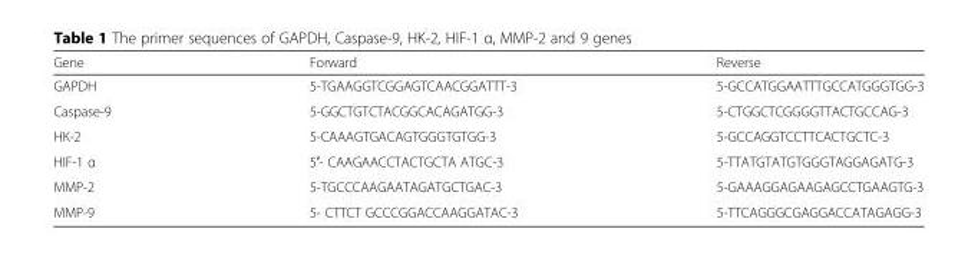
<table><thead><tr><td>Gene</td><td>Forward</td><td>Reverse</td></tr></thead><tbody><tr><td>GAPDH</td><td>5-TGAAGGTCGGAGTCAACGGATTT-3</td><td>5-GCCATGGAATTTGCCATGGGTGG-3</td></tr><tr><td>Caspase-9</td><td>5-GGCTGTCTACGGCACAGATGG-3</td><td>5-CTGGCTCGGGGTTACTGCCAG-3</td></tr><tr><td>HK-2</td><td>5-CAAAGTGACAGTGGGTGTGG-3</td><td>5-GCCAGGTCCTTCACTGCTC-3</td></tr><tr><td>HIF-1 α</td><td>5′- CAAGAACCTACTGCTA ATGC-3</td><td>5-TTATGTATGTGGGTAGGAGATG-3</td></tr><tr><td>MMP-2</td><td>5-TGCCCAAGAATAGATGCTGAC-3</td><td>5-GAAAGGAGAAGAGCCTGAAGTG-3</td></tr><tr><td>MMP-9</td><td>5- CTTCT GCCCGGACCAAGGATAC-3</td><td>5-TTCAGGGCGAGGACCATAGAGG-3</td></tr></tbody></table>